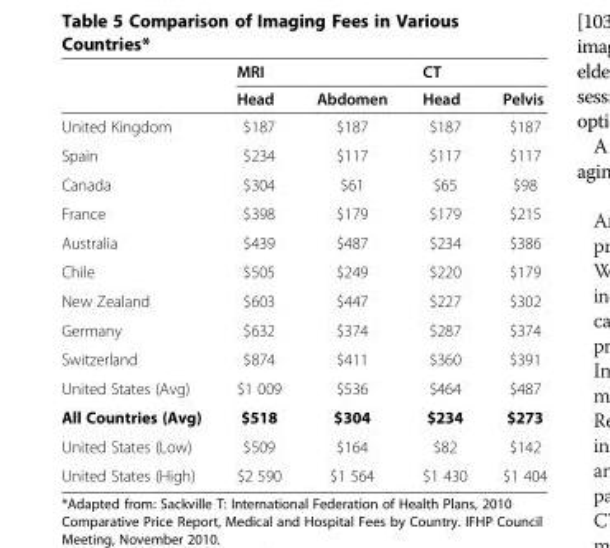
<table><thead><tr><td rowspan="2"></td><td rowspan="2">MRI Head</td><td colspan="3">CT</td></tr><tr><td>Abdomen</td><td>Head</td><td>Pelvis</td></tr></thead><tbody><tr><td>United Kingdom</td><td>$187</td><td>$187</td><td>$187</td><td>$187</td></tr><tr><td>Spain</td><td>$234</td><td>$117</td><td>$117</td><td>$117</td></tr><tr><td>Canada</td><td>$304</td><td>$61</td><td>$65</td><td>$98</td></tr><tr><td>France</td><td>$398</td><td>$179</td><td>$179</td><td>$215</td></tr><tr><td>Australia</td><td>$439</td><td>$487</td><td>$234</td><td>$386</td></tr><tr><td>Chile</td><td>$505</td><td>$249</td><td>$220</td><td>$179</td></tr><tr><td>New Zealand</td><td>$603</td><td>$447</td><td>$227</td><td>$302</td></tr><tr><td>Germany</td><td>$632</td><td>$374</td><td>$287</td><td>$374</td></tr><tr><td>Switzerland</td><td>$874</td><td>$411</td><td>$360</td><td>$391</td></tr><tr><td>United States (Avg)</td><td>$1 009</td><td>$536</td><td>$464</td><td>$487</td></tr><tr><td>All Countries (Avg)</td><td>$518</td><td>$304</td><td>$234</td><td>$273</td></tr><tr><td>United States (Low)</td><td>$509</td><td>$164</td><td>$82</td><td>$142</td></tr><tr><td>United States (High)</td><td>$2 590</td><td>$1 564</td><td>$1 430</td><td>$1 404</td></tr></tbody></table>